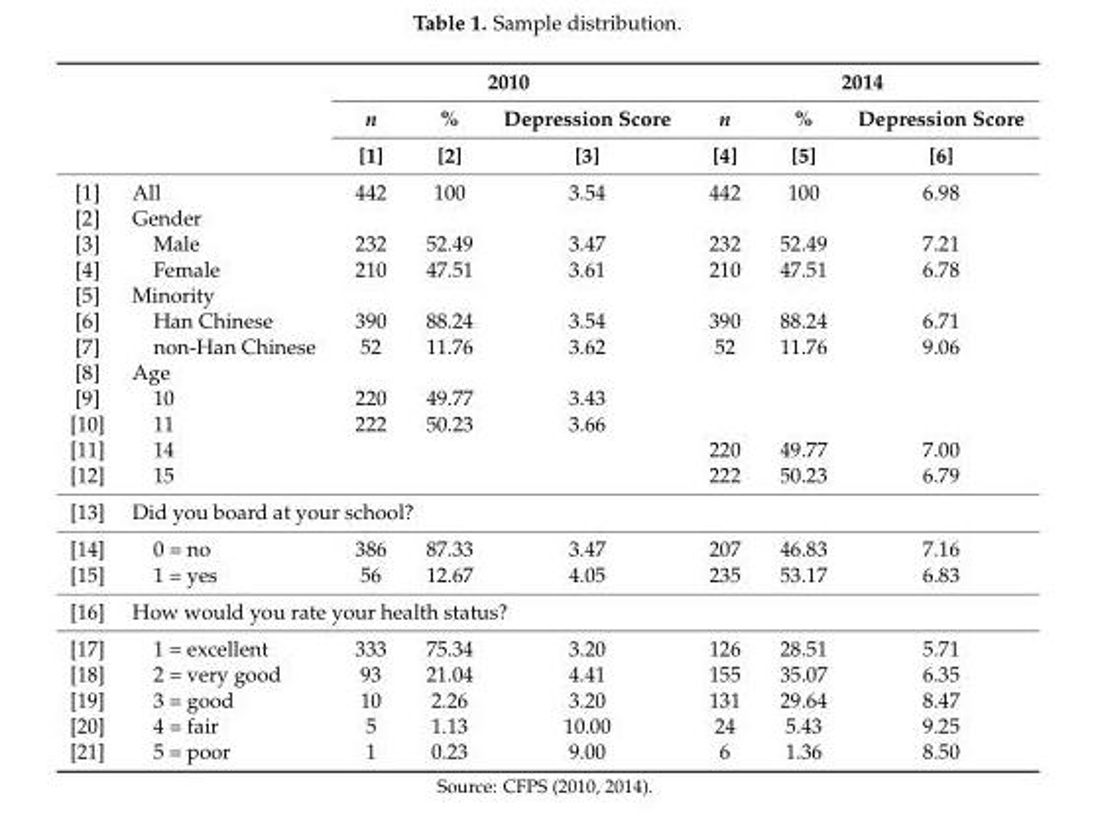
<table><thead><tr><td rowspan="3"></td><td rowspan="3"></td><td colspan="3">2010</td><td colspan="3">2014</td></tr><tr><td rowspan="2">n [1]</td><td rowspan="2">% [2]</td><td rowspan="2">Depression Score [3]</td><td rowspan="2">n [4]</td><td rowspan="2">% [5]</td><td rowspan="2">Depression Score [6]</td></tr><tr></tr></thead><tbody><tr><td>[1]</td><td>All</td><td>442</td><td>100</td><td>3.54</td><td>442</td><td>100</td><td>6.98</td></tr><tr><td>[2]</td><td>Gender</td><td></td><td></td><td></td><td></td><td></td><td></td></tr><tr><td>[3]</td><td>Male</td><td>232</td><td>52.49</td><td>3.47</td><td>232</td><td>52.49</td><td>7.21</td></tr><tr><td>[4]</td><td>Female</td><td>210</td><td>47.51</td><td>3.61</td><td>210</td><td>47.51</td><td>6.78</td></tr><tr><td>[5]</td><td>Minority</td><td></td><td></td><td></td><td></td><td></td><td></td></tr><tr><td>[6]</td><td>Han Chinese</td><td>390</td><td>88.24</td><td>3.54</td><td>390</td><td>88.24</td><td>6.71</td></tr><tr><td>[7]</td><td>non-Han Chinese</td><td>52</td><td>11.76</td><td>3.62</td><td>52</td><td>11.76</td><td>9.06</td></tr><tr><td>[8]</td><td>Age</td><td></td><td></td><td></td><td></td><td></td><td></td></tr><tr><td>[9]</td><td>10</td><td>220</td><td>49.77</td><td>3.43</td><td></td><td></td><td></td></tr><tr><td>[10]</td><td>11</td><td>222</td><td>50.23</td><td>3.66</td><td></td><td></td><td></td></tr><tr><td>[11]</td><td>14</td><td></td><td></td><td></td><td>220</td><td>49.77</td><td>7.00</td></tr><tr><td>[12]</td><td>15</td><td></td><td></td><td></td><td>222</td><td>50.23</td><td>6.79</td></tr><tr><td>[13]</td><td colspan="7">Did you board at your school?</td></tr><tr><td>[14]</td><td>0 = no</td><td>386</td><td>87.33</td><td>3.47</td><td>207</td><td>46.83</td><td>7.16</td></tr><tr><td>[15]</td><td>1 = yes</td><td>56</td><td>12.67</td><td>4.05</td><td>235</td><td>53.17</td><td>6.83</td></tr><tr><td>[16]</td><td colspan="7">How would you rate your health status?</td></tr><tr><td>[17]</td><td>1 = excellent</td><td>333</td><td>75.34</td><td>3.20</td><td>126</td><td>28.51</td><td>5.71</td></tr><tr><td>[18]</td><td>2 = very good</td><td>93</td><td>21.04</td><td>4.41</td><td>155</td><td>35.07</td><td>6.35</td></tr><tr><td>[19]</td><td>3 = good</td><td>10</td><td>2.26</td><td>3.20</td><td>131</td><td>29.64</td><td>8.47</td></tr><tr><td>[20]</td><td>4 = fair</td><td>5</td><td>1.13</td><td>10.00</td><td>24</td><td>5.43</td><td>9.25</td></tr><tr><td>[21]</td><td>5 = poor</td><td>1</td><td>0.23</td><td>9.00</td><td>6</td><td>1.36</td><td>8.50</td></tr></tbody></table>